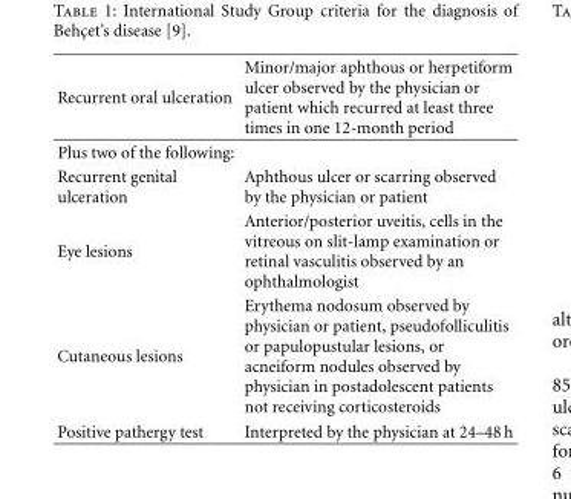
<table><thead><tr><td>Recurrent oral ulceration</td><td>Minor/major aphthous or herpetiform ulcer observed by the physician or patient which recurred at least three times in one 12-month period</td></tr></thead><tbody><tr><td colspan="2">Plus two of the following:</td></tr><tr><td>Recurrent genital ulceration</td><td>Aphthous ulcer or scarring observed by the physician or patient</td></tr><tr><td>Eye lesions</td><td>Anterior/posterior uveitis, cells in the vitreous on slit-lamp examination or retinal vasculitis observed by an ophthalmologist</td></tr><tr><td>Cutaneous lesions</td><td>Erythema nodosum observed by physician or patient, pseudofolliculitis or papulopustular lesions, or acneiform nodules observed by physician in postadolescent patients not receiving corticosteroids</td></tr><tr><td>Positive pathergy test</td><td>Interpreted by the physician at 24–48 h</td></tr></tbody></table>